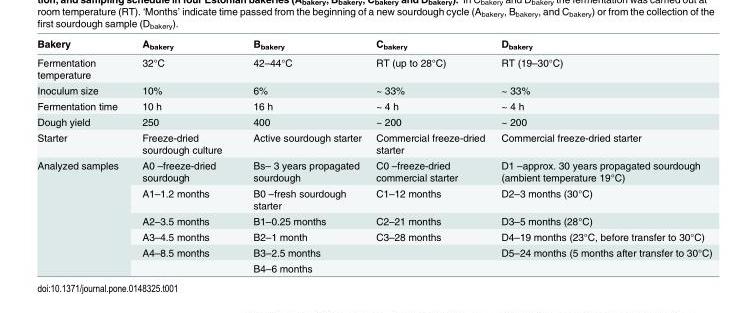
<table><thead><tr><td>Bakery</td><td>A<sub>bakery</sub></td><td>B<sub>bakery</sub></td><td>C<sub>bakery</sub></td><td>D<sub>bakery</sub></td></tr></thead><tbody><tr><td>Fermentation temperature</td><td>32°C</td><td>42–44°C</td><td>RT (up to 28°C)</td><td>RT (19–30°C)</td></tr><tr><td>Inoculum size</td><td>10%</td><td>6%</td><td>~ 33%</td><td>~ 33%</td></tr><tr><td>Fermentation time</td><td>10 h</td><td>16 h</td><td>~ 4 h</td><td>~ 4 h</td></tr><tr><td>Dough yield</td><td>250</td><td>400</td><td>~ 200</td><td>~ 200</td></tr><tr><td>Starter</td><td>Freeze-dried sourdough culture</td><td>Active sourdough starter</td><td>Commercial freeze-dried starter</td><td>Commercial freeze-dried starter</td></tr><tr><td rowspan="6">Analyzed samples</td><td>A0 –freeze-dried sourdough</td><td>Bs– 3 years propagated sourdough</td><td>C0 –freeze-dried commercial starter</td><td>D1 –approx. 30 years propagated sourdough (ambient temperature 19°C)</td></tr><tr><td>A1–1.2 months</td><td>B0 –fresh sourdough starter</td><td>C1–12 months</td><td>D2–3 months (30°C)</td></tr><tr><td>A2–3.5 months</td><td>B1–0.25 months</td><td>C2–21 months</td><td>D3–5 months (28°C)</td></tr><tr><td>A3–4.5 months</td><td>B2–1 month</td><td>C3–28 months</td><td>D4–19 months (23°C, before transfer to 30°C)</td></tr><tr><td>A4–8.5 months</td><td>B3–2.5 months</td><td></td><td>D5–24 months (5 months after transfer to 30°C)</td></tr><tr><td></td><td>B4–6 months</td><td></td><td></td></tr></tbody></table>